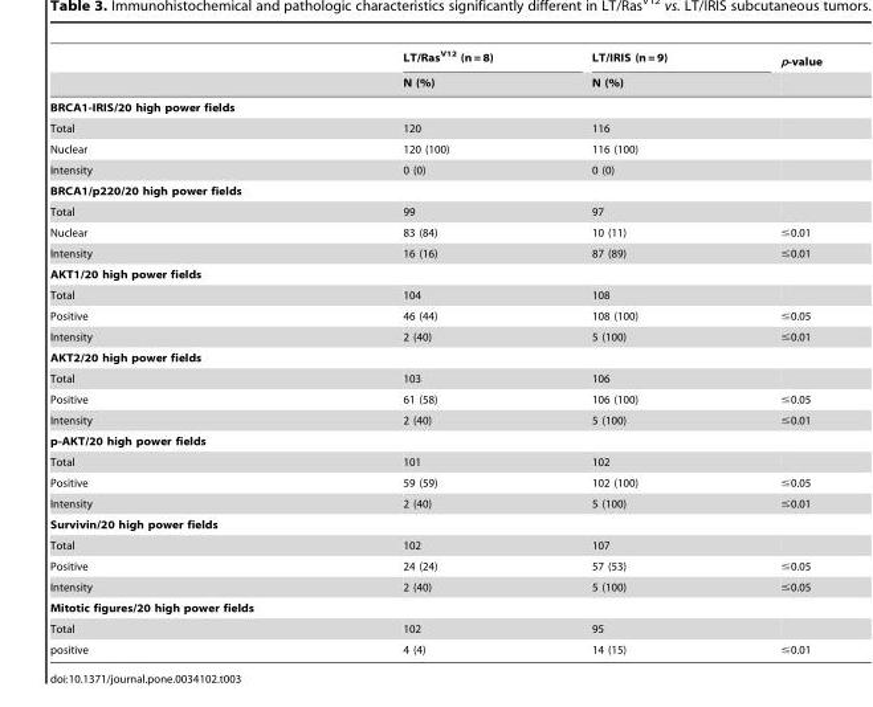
<table><thead><tr><td rowspan="2"></td><td rowspan="2">LT/Ras<sup>V12</sup> (n = 8) N (%)</td><td rowspan="2">LT/IRIS (n = 9) N (%)</td><td rowspan="2">p-value</td></tr><tr></tr></thead><tbody><tr><td colspan="4">BRCA1-IRIS/20 high power fields</td></tr><tr><td>Total</td><td>120</td><td>116</td><td></td></tr><tr><td>Nuclear</td><td>120 (100)</td><td>116 (100)</td><td></td></tr><tr><td>Intensity</td><td>0 (0)</td><td>0 (0)</td><td></td></tr><tr><td colspan="4">BRCA1/p220/20 high power fields</td></tr><tr><td>Total</td><td>99</td><td>97</td><td></td></tr><tr><td>Nuclear</td><td>83 (84)</td><td>10 (11)</td><td>≤0.01</td></tr><tr><td>Intensity</td><td>16 (16)</td><td>87 (89)</td><td>≤0.01</td></tr><tr><td colspan="4">AKT1/20 high power fields</td></tr><tr><td>Total</td><td>104</td><td>108</td><td></td></tr><tr><td>Positive</td><td>46 (44)</td><td>108 (100)</td><td>≤0.05</td></tr><tr><td>Intensity</td><td>2 (40)</td><td>5 (100)</td><td>≤0.01</td></tr><tr><td colspan="4">AKT2/20 high power fields</td></tr><tr><td>Total</td><td>103</td><td>106</td><td></td></tr><tr><td>Positive</td><td>61 (58)</td><td>106 (100)</td><td>≤0.05</td></tr><tr><td>Intensity</td><td>2 (40)</td><td>5 (100)</td><td>≤0.01</td></tr><tr><td colspan="4">p-AKT/20 high power fields</td></tr><tr><td>Total</td><td>101</td><td>102</td><td></td></tr><tr><td>Positive</td><td>59 (59)</td><td>102 (100)</td><td>≤0.05</td></tr><tr><td>Intensity</td><td>2 (40)</td><td>5 (100)</td><td>≤0.01</td></tr><tr><td colspan="4">Survivin/20 high power fields</td></tr><tr><td>Total</td><td>102</td><td>107</td><td></td></tr><tr><td>Positive</td><td>24 (24)</td><td>57 (53)</td><td>≤0.05</td></tr><tr><td>Intensity</td><td>2 (40)</td><td>5 (100)</td><td>≤0.05</td></tr><tr><td colspan="4">Mitotic figures/20 high power fields</td></tr><tr><td>Total</td><td>102</td><td>95</td><td></td></tr><tr><td>positive</td><td>4 (4)</td><td>14 (15)</td><td>≤0.01</td></tr></tbody></table>